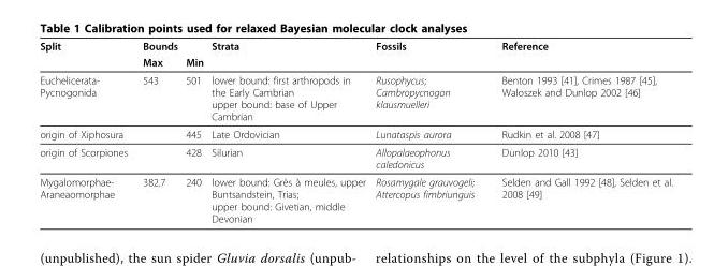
<table><thead><tr><td rowspan="2">Split</td><td rowspan="2">Bounds Max</td><td rowspan="2">Min</td><td rowspan="2">Strata</td><td rowspan="2">Fossils</td><td rowspan="2">Reference</td></tr><tr></tr></thead><tbody><tr><td>Euchelicerata- Pycnogonida</td><td>543</td><td>501</td><td>lower bound: first arthropods in the Early Cambrian upper bound: base of Upper Cambrian</td><td>Rusophycus; Cambropycnogon klausmuelleri</td><td>Benton 1993 [41], Crimes 1987 [45], Waloszek and Dunlop 2002 [46]</td></tr><tr><td>origin of Xiphosura</td><td></td><td>445</td><td>Late Ordovician</td><td>Lunataspis aurora</td><td>Rudkin et al. 2008 [47]</td></tr><tr><td>origin of Scorpiones</td><td></td><td>428</td><td>Silurian</td><td>Allopalaeophonus caledonicus</td><td>Dunlop 2010 [43]</td></tr><tr><td>Mygalomorphae- Araneaomorphae</td><td>382.7</td><td>240</td><td>lower bound: Grès à meules, upper Buntsandstein, Trias; upper bound: Givetian, middle Devonian</td><td>Rosamygale grauvogeli; Attercopus fimbriunguis</td><td>Selden and Gall 1992 [48], Selden et al. 2008 [49]</td></tr></tbody></table>